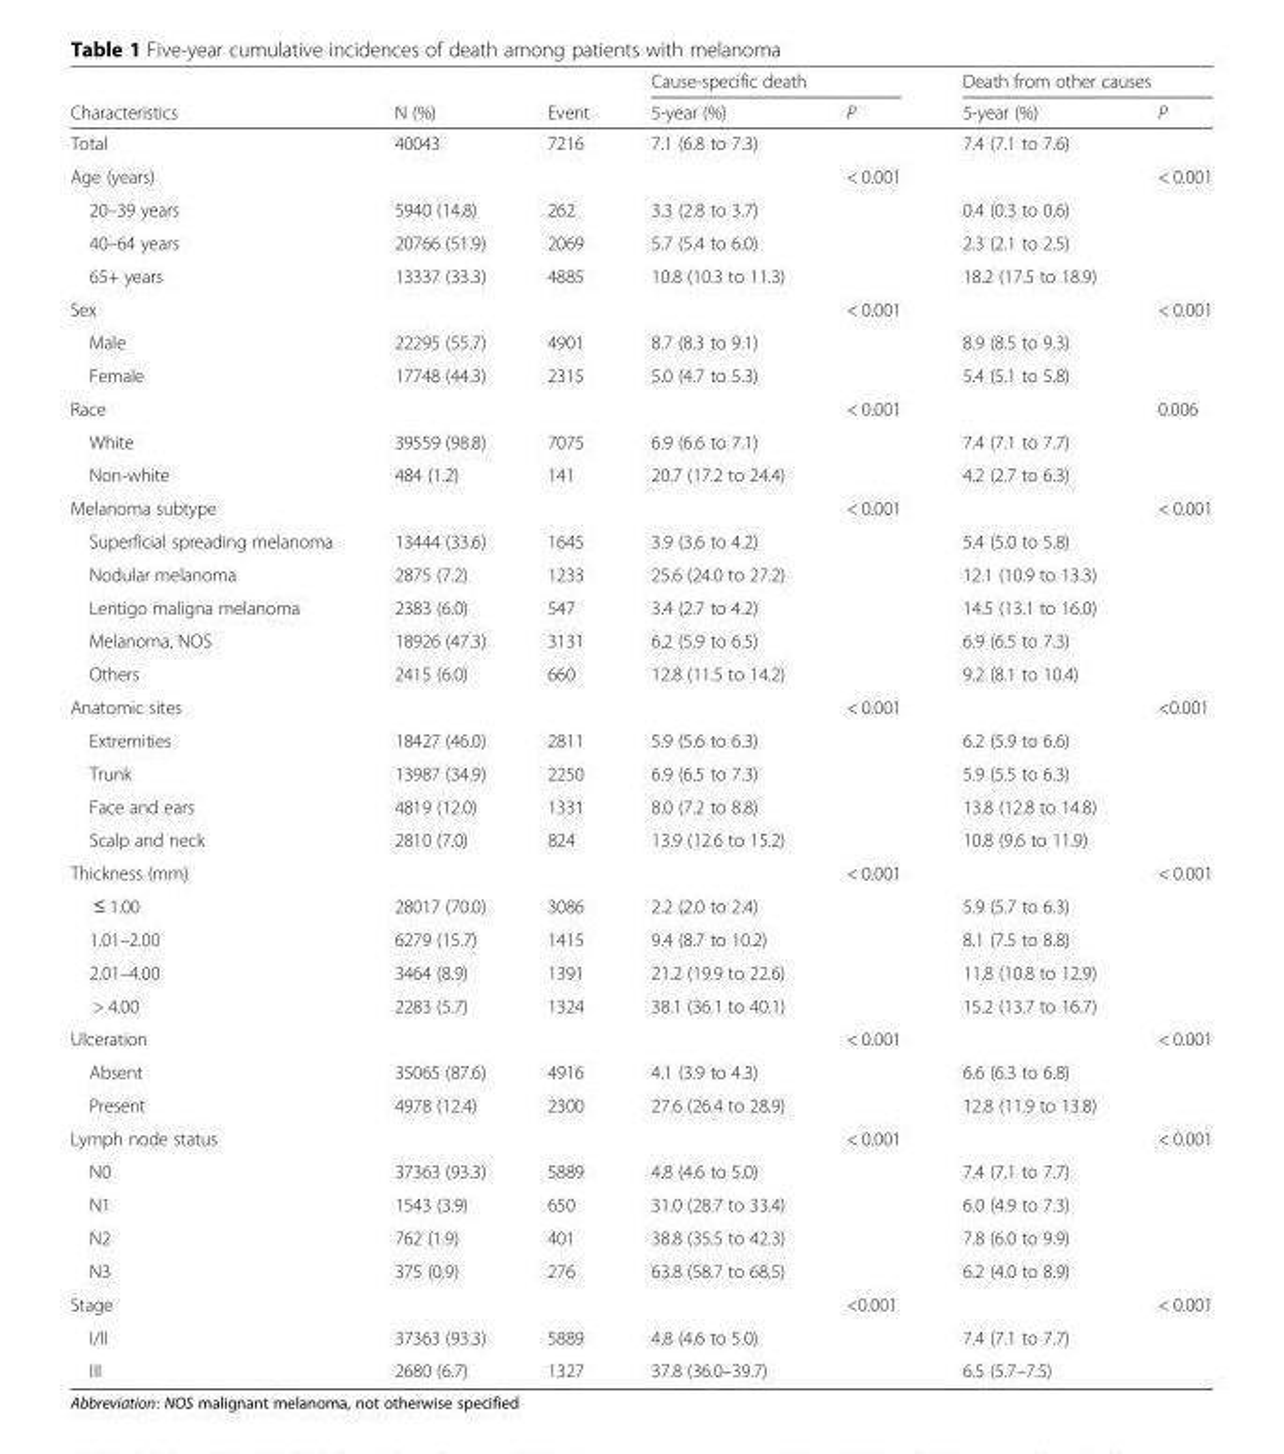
<table><thead><tr><td rowspan="2">Characteristics</td><td rowspan="2">N (%)</td><td rowspan="2">Event</td><td colspan="2">Cause-specific death</td><td colspan="2">Death from other causes</td></tr><tr><td>5-year (%)</td><td>P</td><td>5-year (%)</td><td>P</td></tr></thead><tbody><tr><td>Total</td><td>40043</td><td>7216</td><td>7.1 (6.8 to 7.3)</td><td></td><td>7.4 (7.1 to 7.6)</td><td></td></tr><tr><td>Age (years)</td><td></td><td></td><td></td><td>&lt; 0.001</td><td></td><td>&lt; 0.001</td></tr><tr><td>20–39 years</td><td>5940 (14.8)</td><td>262</td><td>3.3 (2.8 to 3.7)</td><td></td><td>0.4 (0.3 to 0.6)</td><td></td></tr><tr><td>40–64 years</td><td>20766 (51.9)</td><td>2069</td><td>5.7 (5.4 to 6.0)</td><td></td><td>2.3 (2.1 to 2.5)</td><td></td></tr><tr><td>65+ years</td><td>13337 (33.3)</td><td>4885</td><td>10.8 (10.3 to 11.3)</td><td></td><td>18.2 (17.5 to 18.9)</td><td></td></tr><tr><td>Sex</td><td></td><td></td><td></td><td>&lt; 0.001</td><td></td><td>&lt; 0.001</td></tr><tr><td>Male</td><td>22295 (55.7)</td><td>4901</td><td>8.7 (8.3 to 9.1)</td><td></td><td>8.9 (8.5 to 9.3)</td><td></td></tr><tr><td>Female</td><td>17748 (44.3)</td><td>2315</td><td>5.0 (4.7 to 5.3)</td><td></td><td>5.4 (5.1 to 5.8)</td><td></td></tr><tr><td>Race</td><td></td><td></td><td></td><td>&lt; 0.001</td><td></td><td>0.006</td></tr><tr><td>White</td><td>39559 (98.8)</td><td>7075</td><td>6.9 (6.6 to 7.1)</td><td></td><td>7.4 (7.1 to 7.7)</td><td></td></tr><tr><td>Non-white</td><td>484 (1.2)</td><td>141</td><td>20.7 (17.2 to 24.4)</td><td></td><td>4.2 (2.7 to 6.3)</td><td></td></tr><tr><td>Melanoma subtype</td><td></td><td></td><td></td><td>&lt; 0.001</td><td></td><td>&lt; 0.001</td></tr><tr><td>Superficial spreading melanoma</td><td>13444 (33.6)</td><td>1645</td><td>3.9 (3.6 to 4.2)</td><td></td><td>5.4 (5.0 to 5.8)</td><td></td></tr><tr><td>Nodular melanoma</td><td>2875 (7.2)</td><td>1233</td><td>25.6 (24.0 to 27.2)</td><td></td><td>12.1 (10.9 to 13.3)</td><td></td></tr><tr><td>Lentigo maligna melanoma</td><td>2383 (6.0)</td><td>547</td><td>3.4 (2.7 to 4.2)</td><td></td><td>14.5 (13.1 to 16.0)</td><td></td></tr><tr><td>Melanoma, NOS</td><td>18926 (47.3)</td><td>3131</td><td>6.2 (5.9 to 6.5)</td><td></td><td>6.9 (6.5 to 7.3)</td><td></td></tr><tr><td>Others</td><td>2415 (6.0)</td><td>660</td><td>12.8 (11.5 to 14.2)</td><td></td><td>9.2 (8.1 to 10.4)</td><td></td></tr><tr><td>Anatomic sites</td><td></td><td></td><td></td><td>&lt; 0.001</td><td></td><td>&lt;0.001</td></tr><tr><td>Extremities</td><td>18427 (46.0)</td><td>2811</td><td>5.9 (5.6 to 6.3)</td><td></td><td>6.2 (5.9 to 6.6)</td><td></td></tr><tr><td>Trunk</td><td>13987 (34.9)</td><td>2250</td><td>6.9 (6.5 to 7.3)</td><td></td><td>5.9 (5.5 to 6.3)</td><td></td></tr><tr><td>Face and ears</td><td>4819 (12.0)</td><td>1331</td><td>8.0 (7.2 to 8.8)</td><td></td><td>13.8 (12.8 to 14.8)</td><td></td></tr><tr><td>Scalp and neck</td><td>2810 (7.0)</td><td>824</td><td>13.9 (12.6 to 15.2)</td><td></td><td>10.8 (9.6 to 11.9)</td><td></td></tr><tr><td>Thickness (mm)</td><td></td><td></td><td></td><td>&lt; 0.001</td><td></td><td>&lt; 0.001</td></tr><tr><td>≤ 1.00</td><td>28017 (70.0)</td><td>3086</td><td>2.2 (2.0 to 2.4)</td><td></td><td>5.9 (5.7 to 6.3)</td><td></td></tr><tr><td>1.01–2.00</td><td>6279 (15.7)</td><td>1415</td><td>9.4 (8.7 to 10.2)</td><td></td><td>8.1 (7.5 to 8.8)</td><td></td></tr><tr><td>2.01–4.00</td><td>3464 (8.9)</td><td>1391</td><td>21.2 (19.9 to 22.6)</td><td></td><td>11.8 (10.8 to 12.9)</td><td></td></tr><tr><td>&gt; 4.00</td><td>2283 (5.7)</td><td>1324</td><td>38.1 (36.1 to 40.1)</td><td></td><td>15.2 (13.7 to 16.7)</td><td></td></tr><tr><td>Ulceration</td><td></td><td></td><td></td><td>&lt; 0.001</td><td></td><td>&lt; 0.001</td></tr><tr><td>Absent</td><td>35065 (87.6)</td><td>4916</td><td>4.1 (3.9 to 4.3)</td><td></td><td>6.6 (6.3 to 6.8)</td><td></td></tr><tr><td>Present</td><td>4978 (12.4)</td><td>2300</td><td>27.6 (26.4 to 28.9)</td><td></td><td>12.8 (11.9 to 13.8)</td><td></td></tr><tr><td>Lymph node status</td><td></td><td></td><td></td><td>&lt; 0.001</td><td></td><td>&lt; 0.001</td></tr><tr><td>N0</td><td>37363 (93.3)</td><td>5889</td><td>4.8 (4.6 to 5.0)</td><td></td><td>7.4 (7.1 to 7.7)</td><td></td></tr><tr><td>N1</td><td>1543 (3.9)</td><td>650</td><td>31.0 (28.7 to 33.4)</td><td></td><td>6.0 (4.9 to 7.3)</td><td></td></tr><tr><td>N2</td><td>762 (1.9)</td><td>401</td><td>38.8 (35.5 to 42.3)</td><td></td><td>7.8 (6.0 to 9.9)</td><td></td></tr><tr><td>N3</td><td>375 (0.9)</td><td>276</td><td>63.8 (58.7 to 68.5)</td><td></td><td>6.2 (4.0 to 8.9)</td><td></td></tr><tr><td>Stage</td><td></td><td></td><td></td><td>&lt;0.001</td><td></td><td>&lt; 0.001</td></tr><tr><td>I/II</td><td>37363 (93.3)</td><td>5889</td><td>4.8 (4.6 to 5.0)</td><td></td><td>7.4 (7.1 to 7.7)</td><td></td></tr><tr><td>III</td><td>2680 (6.7)</td><td>1327</td><td>37.8 (36.0–39.7)</td><td></td><td>6.5 (5.7–7.5)</td><td></td></tr></tbody></table>